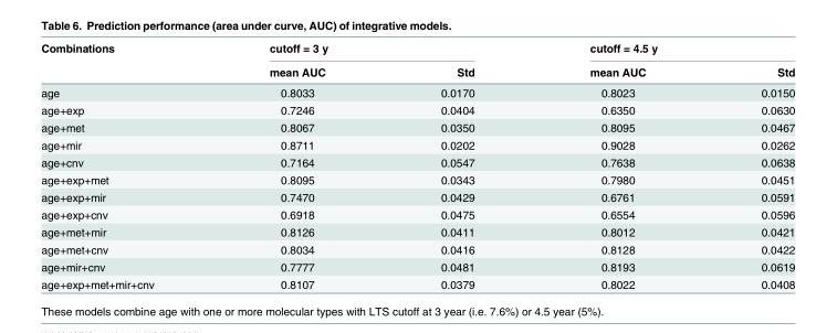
<table><thead><tr><td rowspan="2">Combinations</td><td colspan="2">cutoff = 3 y</td><td colspan="2">cutoff = 4.5 y</td></tr><tr><td>mean AUC</td><td>Std</td><td>mean AUC</td><td>Std</td></tr></thead><tbody><tr><td>age</td><td>0.8033</td><td>0.0170</td><td>0.8023</td><td>0.0150</td></tr><tr><td>age+exp</td><td>0.7246</td><td>0.0404</td><td>0.6350</td><td>0.0630</td></tr><tr><td>age+met</td><td>0.8067</td><td>0.0350</td><td>0.8095</td><td>0.0467</td></tr><tr><td>age+mir</td><td>0.8711</td><td>0.0202</td><td>0.9028</td><td>0.0262</td></tr><tr><td>age+cnv</td><td>0.7164</td><td>0.0547</td><td>0.7638</td><td>0.0638</td></tr><tr><td>age+exp+met</td><td>0.8095</td><td>0.0343</td><td>0.7980</td><td>0.0451</td></tr><tr><td>age+exp+mir</td><td>0.7470</td><td>0.0429</td><td>0.6761</td><td>0.0591</td></tr><tr><td>age+exp+cnv</td><td>0.6918</td><td>0.0475</td><td>0.6554</td><td>0.0596</td></tr><tr><td>age+met+mir</td><td>0.8126</td><td>0.0411</td><td>0.8012</td><td>0.0421</td></tr><tr><td>age+met+cnv</td><td>0.8034</td><td>0.0416</td><td>0.8128</td><td>0.0422</td></tr><tr><td>age+mir+cnv</td><td>0.7777</td><td>0.0481</td><td>0.8193</td><td>0.0619</td></tr><tr><td>age+exp+met+mir+cnv</td><td>0.8107</td><td>0.0379</td><td>0.8022</td><td>0.0408</td></tr></tbody></table>